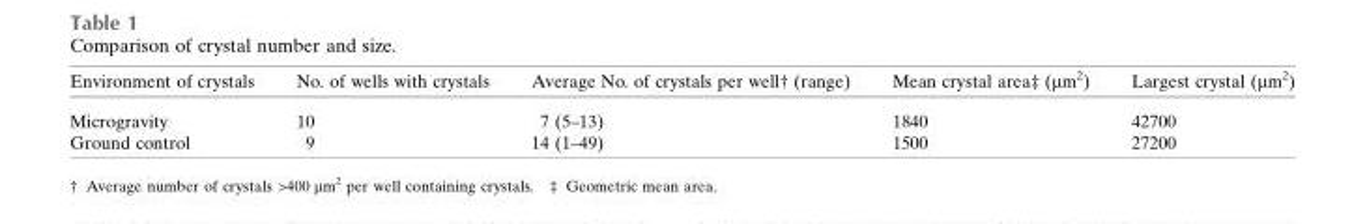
<table><thead><tr><td>Environment of crystals</td><td>No. of wells with crystals</td><td>Average No. of crystals per well† (range)</td><td>Mean crystal area‡ (µm<sup>2</sup>)</td><td>Largest crystal (µm<sup>2</sup>)</td></tr></thead><tbody><tr><td>Microgravity</td><td>10</td><td>7 (5–13)</td><td>1840</td><td>42700</td></tr><tr><td>Ground control</td><td>9</td><td>14 (1–49)</td><td>1500</td><td>27200</td></tr></tbody></table>